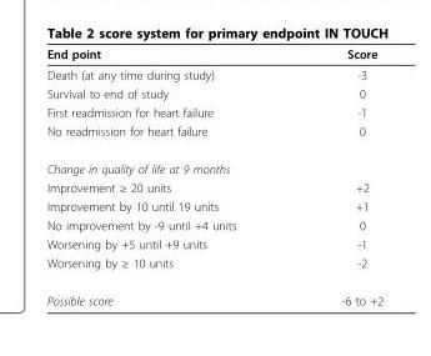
<table><thead><tr><td>End point</td><td>Score</td></tr></thead><tbody><tr><td>Death (at any time during study)</td><td>-3</td></tr><tr><td>Survival to end of study</td><td>0</td></tr><tr><td>First readmission for heart failure</td><td>-1</td></tr><tr><td>No readmission for heart failure</td><td>0</td></tr><tr><td colspan="2">Change in quality of life at 9 months</td></tr><tr><td>Improvement ≥ 20 units</td><td>+2</td></tr><tr><td>Improvement by 10 until 19 units</td><td>+1</td></tr><tr><td>No improvement by -9 until +4 units</td><td>0</td></tr><tr><td>Worsening by +5 until +9 units</td><td>-1</td></tr><tr><td>Worsening by ≥ 10 units</td><td>-2</td></tr><tr><td>Possible score</td><td>-6 to +2</td></tr></tbody></table>